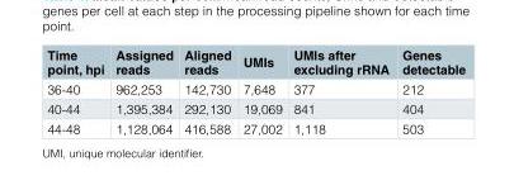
<table><thead><tr><td>Time point, hpi</td><td>Assigned reads</td><td>Aligned reads</td><td>UMIs</td><td>UMIs after excluding rRNA</td><td>Genes detectable</td></tr></thead><tbody><tr><td>36-40</td><td>962,253</td><td>142,730</td><td>7,648</td><td>377</td><td>212</td></tr><tr><td>40-44</td><td>1,395,384</td><td>292,130</td><td>19,069</td><td>841</td><td>404</td></tr><tr><td>44-48</td><td>1,128,064</td><td>416,588</td><td>27,002</td><td>1,118</td><td>503</td></tr></tbody></table>